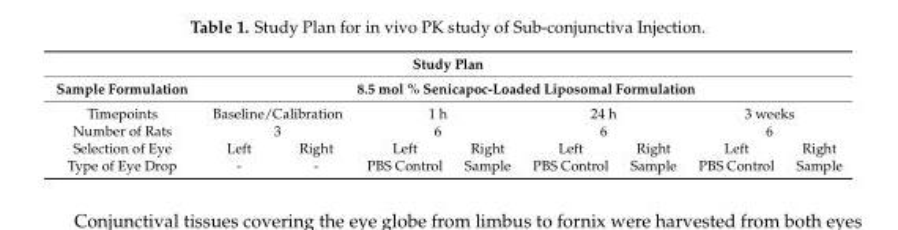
<table><thead><tr><td colspan="9">Study Plan</td></tr><tr><td rowspan="4">Sample Formulation Timepoints Number of Rats Selection of Eye</td><td colspan="8">8.5 mol % Senicapoc-Loaded Liposomal Formulation</td></tr><tr><td rowspan="2" colspan="2">Baseline/Calibration 3</td><td rowspan="2" colspan="2">1 h 6</td><td rowspan="2" colspan="2">24 h 6</td><td rowspan="2" colspan="2">3 weeks 6</td></tr><tr></tr><tr><td>Left</td><td>Right</td><td>Left</td><td>Right</td><td>Left</td><td>Right</td><td>Left</td><td>Right</td></tr></thead><tbody><tr><td>Type of Eye Drop</td><td>-</td><td>-</td><td>PBS Control</td><td>Sample</td><td>PBS Control</td><td>Sample</td><td>PBS Control</td><td>Sample</td></tr></tbody></table>